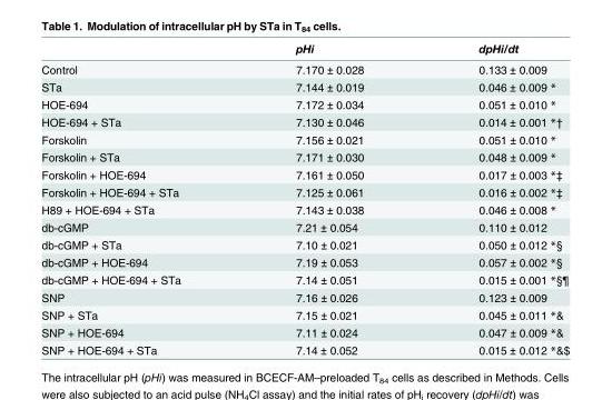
<table><thead><tr><td></td><td>pHi</td><td>dpHi/dt</td></tr></thead><tbody><tr><td>Control</td><td>7.170 ± 0.028</td><td>0.133 ± 0.009</td></tr><tr><td>STa</td><td>7.144 ± 0.019</td><td>0.046 ± 0.009 *</td></tr><tr><td>HOE-694</td><td>7.172 ± 0.034</td><td>0.051 ± 0.010 *</td></tr><tr><td>HOE-694 + STa</td><td>7.130 ± 0.046</td><td>0.014 ± 0.001 *†</td></tr><tr><td>Forskolin</td><td>7.156 ± 0.021</td><td>0.051 ± 0.010 *</td></tr><tr><td>Forskolin + STa</td><td>7.171 ± 0.030</td><td>0.048 ± 0.009 *</td></tr><tr><td>Forskolin + HOE-694</td><td>7.161 ± 0.050</td><td>0.017 ± 0.003 *‡</td></tr><tr><td>Forskolin + HOE-694 + STa</td><td>7.125 ± 0.061</td><td>0.016 ± 0.002 *‡</td></tr><tr><td>H89 + HOE-694 + STa</td><td>7.143 ± 0.038</td><td>0.046 ± 0.008 *</td></tr><tr><td>db-cGMP</td><td>7.21 ± 0.054</td><td>0.110 ± 0.012</td></tr><tr><td>db-cGMP + STa</td><td>7.10 ± 0.021</td><td>0.050 ± 0.012 *§</td></tr><tr><td>db-cGMP + HOE-694</td><td>7.19 ± 0.053</td><td>0.057 ± 0.002 *§</td></tr><tr><td>db-cGMP + HOE-694 + STa</td><td>7.14 ± 0.051</td><td>0.015 ± 0.001 *§¶</td></tr><tr><td>SNP</td><td>7.16 ± 0.026</td><td>0.123 ± 0.009</td></tr><tr><td>SNP + STa</td><td>7.15 ± 0.021</td><td>0.045 ± 0.011 *&amp;</td></tr><tr><td>SNP + HOE-694</td><td>7.11 ± 0.024</td><td>0.047 ± 0.009 *&amp;</td></tr><tr><td>SNP + HOE-694 + STa</td><td>7.14 ± 0.052</td><td>0.015 ± 0.012 *&amp;$</td></tr></tbody></table>